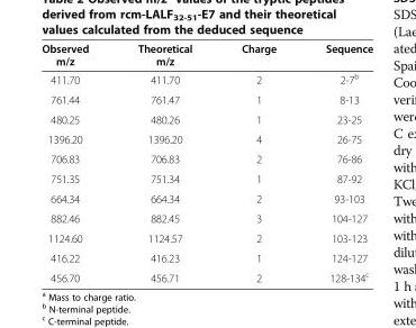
<table><thead><tr><td>Observed m/z</td><td>Theoretical m/z</td><td>Charge</td><td>Sequence</td></tr></thead><tbody><tr><td>411.70</td><td>411.70</td><td>2</td><td>2-7<sup>b</sup></td></tr><tr><td>761.44</td><td>761.47</td><td>1</td><td>8-13</td></tr><tr><td>480.25</td><td>480.26</td><td>1</td><td>23-25</td></tr><tr><td>1396.20</td><td>1396.20</td><td>4</td><td>26-75</td></tr><tr><td>706.83</td><td>706.83</td><td>2</td><td>76-86</td></tr><tr><td>751.35</td><td>751.34</td><td>1</td><td>87-92</td></tr><tr><td>664.34</td><td>664.34</td><td>2</td><td>93-103</td></tr><tr><td>882.46</td><td>882.45</td><td>3</td><td>104-127</td></tr><tr><td>1124.60</td><td>1124.57</td><td>2</td><td>103-123</td></tr><tr><td>416.22</td><td>416.23</td><td>1</td><td>124-127</td></tr><tr><td>456.70</td><td>456.71</td><td>2</td><td>128-134<sup>c</sup></td></tr></tbody></table>